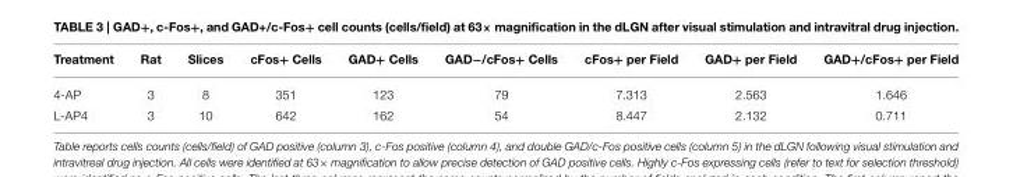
<table><thead><tr><td>Treatment</td><td>Rat</td><td>Slices</td><td>cFos+ Cells</td><td>GAD+ Cells</td><td>GAD−/cFos+ Cells</td><td>cFos+ per Field</td><td>GAD+ per Field</td><td>GAD+/cFos+ per Field</td></tr></thead><tbody><tr><td>4-AP</td><td>3</td><td>8</td><td>351</td><td>123</td><td>79</td><td>7.313</td><td>2.563</td><td>1.646</td></tr><tr><td>L-AP4</td><td>3</td><td>10</td><td>642</td><td>162</td><td>54</td><td>8.447</td><td>2.132</td><td>0.711</td></tr></tbody></table>